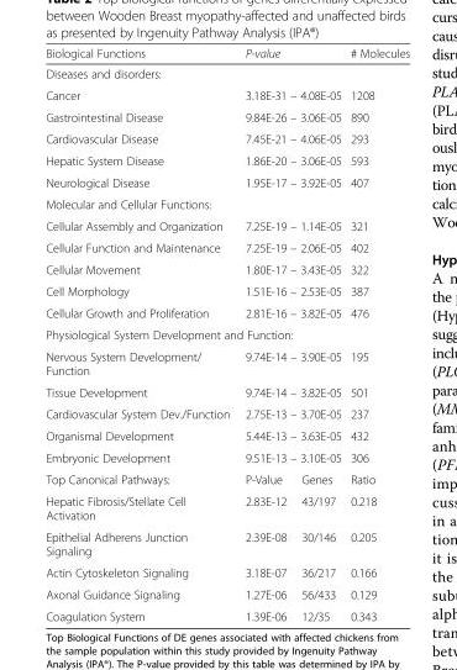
<table><thead><tr><td>Biological Functions</td><td colspan="2">P-value</td><td># Molecules</td></tr></thead><tbody><tr><td colspan="4">Diseases and disorders:</td></tr><tr><td>Cancer</td><td colspan="2">3.18E-31 – 4.08E-05</td><td>1208</td></tr><tr><td>Gastrointestinal Disease</td><td colspan="2">9.84E-26 – 3.06E-05</td><td>890</td></tr><tr><td>Cardiovascular Disease</td><td colspan="2">7.45E-21 – 4.06E-05</td><td>293</td></tr><tr><td>Hepatic System Disease</td><td colspan="2">1.86E-20 – 3.06E-05</td><td>593</td></tr><tr><td>Neurological Disease</td><td colspan="2">1.95E-17 – 3.92E-05</td><td>407</td></tr><tr><td colspan="4">Molecular and Cellular Functions:</td></tr><tr><td>Cellular Assembly and Organization</td><td colspan="2">7.25E-19 – 1.14E-05</td><td>321</td></tr><tr><td>Cellular Function and Maintenance</td><td colspan="2">7.25E-19 – 2.06E-05</td><td>402</td></tr><tr><td>Cellular Movement</td><td colspan="2">1.80E-17 – 3.43E-05</td><td>322</td></tr><tr><td>Cell Morphology</td><td colspan="2">1.51E-16 – 2.53E-05</td><td>387</td></tr><tr><td>Cellular Growth and Proliferation</td><td colspan="2">2.81E-16 – 3.82E-05</td><td>476</td></tr><tr><td colspan="4">Physiological System Development and Function:</td></tr><tr><td>Nervous System Development/ Function</td><td colspan="2">9.74E-14 – 3.90E-05</td><td>195</td></tr><tr><td>Tissue Development</td><td colspan="2">9.74E-14 – 3.82E-05</td><td>501</td></tr><tr><td>Cardiovascular System Dev./Function</td><td colspan="2">2.75E-13 – 3.70E-05</td><td>237</td></tr><tr><td>Organismal Development</td><td colspan="2">5.44E-13 – 3.63E-05</td><td>432</td></tr><tr><td>Embryonic Development</td><td colspan="2">9.51E-13 – 3.10E-05</td><td>306</td></tr><tr><td>Top Canonical Pathways:</td><td>P-Value</td><td>Genes</td><td>Ratio</td></tr><tr><td>Hepatic Fibrosis/Stellate Cell Activation</td><td>2.83E-12</td><td>43/197</td><td>0.218</td></tr><tr><td>Epithelial Adherens Junction Signaling</td><td>2.39E-08</td><td>30/146</td><td>0.205</td></tr><tr><td>Actin Cytoskeleton Signaling</td><td>3.18E-07</td><td>36/217</td><td>0.166</td></tr><tr><td>Axonal Guidance Signaling</td><td>1.27E-06</td><td>56/433</td><td>0.129</td></tr><tr><td>Coagulation System</td><td>1.39E-06</td><td>12/35</td><td>0.343</td></tr></tbody></table>